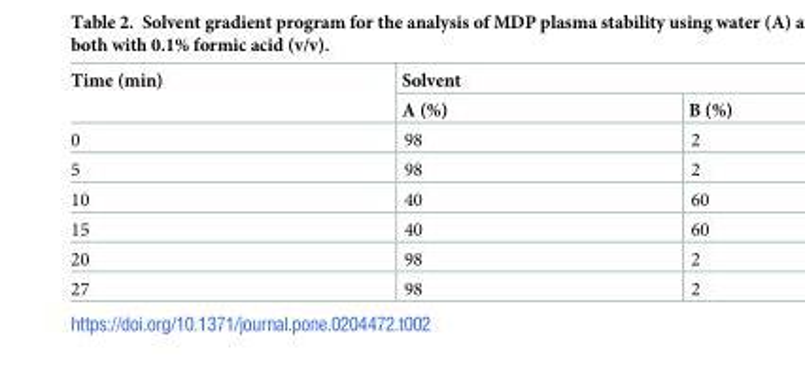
<table><thead><tr><td rowspan="2">Time (min)</td><td colspan="2">Solvent</td></tr><tr><td>A (%)</td><td>B (%)</td></tr></thead><tbody><tr><td>0</td><td>98</td><td>2</td></tr><tr><td>5</td><td>98</td><td>2</td></tr><tr><td>10</td><td>40</td><td>60</td></tr><tr><td>15</td><td>40</td><td>60</td></tr><tr><td>20</td><td>98</td><td>2</td></tr><tr><td>27</td><td>98</td><td>2</td></tr></tbody></table>